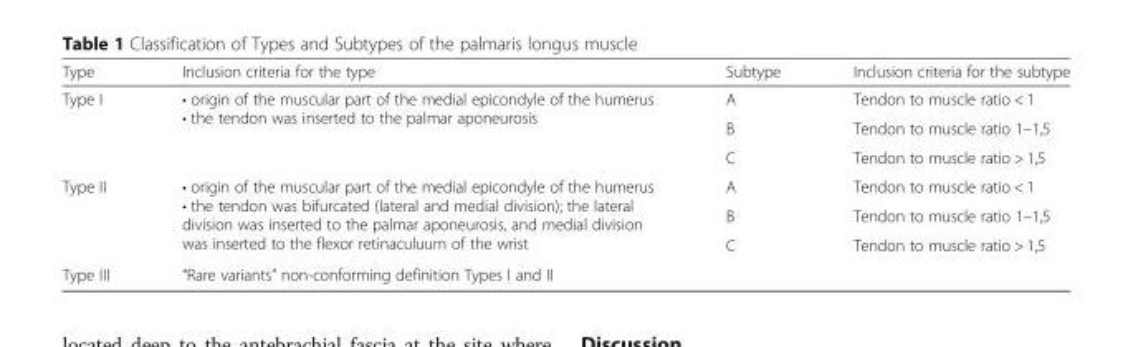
<table><thead><tr><td>Type</td><td>Inclusion criteria for the type</td><td>Subtype</td><td>Inclusion criteria for the subtype</td></tr></thead><tbody><tr><td rowspan="3">Type I</td><td rowspan="3">• origin of the muscular part of the medial epicondyle of the humerus • the tendon was inserted to the palmar aponeurosis</td><td>A</td><td>Tendon to muscle ratio &lt; 1</td></tr><tr><td>B</td><td>Tendon to muscle ratio 1–1,5</td></tr><tr><td>C</td><td>Tendon to muscle ratio &gt; 1,5</td></tr><tr><td rowspan="3">Type II</td><td rowspan="3">• origin of the muscular part of the medial epicondyle of the humerus • the tendon was bifurcated (lateral and medial division); the lateral division was inserted to the palmar aponeurosis, and medial division was inserted to the flexor retinaculuum of the wrist</td><td>A</td><td>Tendon to muscle ratio &lt; 1</td></tr><tr><td>B</td><td>Tendon to muscle ratio 1–1,5</td></tr><tr><td>C</td><td>Tendon to muscle ratio &gt; 1,5</td></tr><tr><td>Type III</td><td>“Rare variants” non-conforming definition Types I and II</td><td colspan="2"></td></tr></tbody></table>